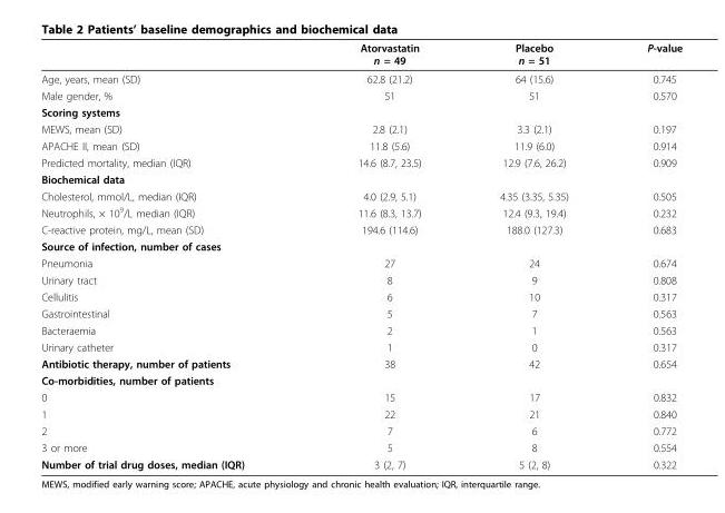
<table><thead><tr><td></td><td>Atorvastatin n = 49</td><td>Placebo n = 51</td><td>P-value</td></tr></thead><tbody><tr><td>Age, years, mean (SD)</td><td>62.8 (21.2)</td><td>64 (15.6)</td><td>0.745</td></tr><tr><td>Male gender, %</td><td>51</td><td>51</td><td>0.570</td></tr><tr><td colspan="4">Scoring systems</td></tr><tr><td>MEWS, mean (SD)</td><td>2.8 (2.1)</td><td>3.3 (2.1)</td><td>0.197</td></tr><tr><td>APACHE II, mean (SD)</td><td>11.8 (5.6)</td><td>11.9 (6.0)</td><td>0.914</td></tr><tr><td>Predicted mortality, median (IQR)</td><td>14.6 (8.7, 23.5)</td><td>12.9 (7.6, 26.2)</td><td>0.909</td></tr><tr><td colspan="4">Biochemical data</td></tr><tr><td>Cholesterol, mmol/L, median (IQR)</td><td>4.0 (2.9, 5.1)</td><td>4.35 (3.35, 5.35)</td><td>0.505</td></tr><tr><td>Neutrophils, × 10<sup>9</sup>/L median (IQR)</td><td>11.6 (8.3, 13.7)</td><td>12.4 (9.3, 19.4)</td><td>0.232</td></tr><tr><td>C-reactive protein, mg/L, mean (SD)</td><td>194.6 (114.6)</td><td>188.0 (127.3)</td><td>0.683</td></tr><tr><td colspan="4">Source of infection, number of cases</td></tr><tr><td>Pneumonia</td><td>27</td><td>24</td><td>0.674</td></tr><tr><td>Urinary tract</td><td>8</td><td>9</td><td>0.808</td></tr><tr><td>Cellulitis</td><td>6</td><td>10</td><td>0.317</td></tr><tr><td>Gastrointestinal</td><td>5</td><td>7</td><td>0.563</td></tr><tr><td>Bacteraemia</td><td>2</td><td>1</td><td>0.563</td></tr><tr><td>Urinary catheter</td><td>1</td><td>0</td><td>0.317</td></tr><tr><td>Antibiotic therapy, number of patients</td><td>38</td><td>42</td><td>0.654</td></tr><tr><td colspan="4">Co-morbidities, number of patients</td></tr><tr><td>0</td><td>15</td><td>17</td><td>0.832</td></tr><tr><td>1</td><td>22</td><td>21</td><td>0.840</td></tr><tr><td>2</td><td>7</td><td>6</td><td>0.772</td></tr><tr><td>3 or more</td><td>5</td><td>8</td><td>0.554</td></tr><tr><td>Number of trial drug doses, median (IQR)</td><td>3 (2, 7)</td><td>5 (2, 8)</td><td>0.322</td></tr></tbody></table>